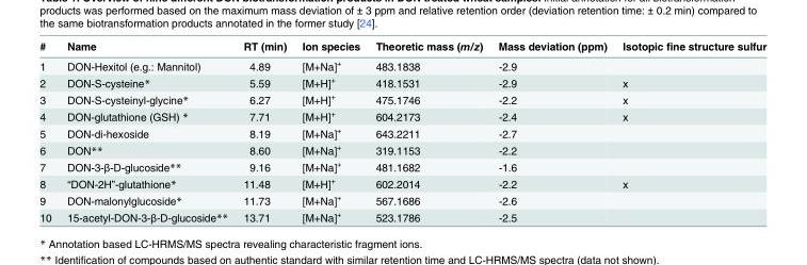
<table><thead><tr><td>#</td><td>Name</td><td>RT (min)</td><td>Ion species</td><td>Theoretic mass (m/z)</td><td>Mass deviation (ppm)</td><td>Isotopic fine structure sulfur</td></tr></thead><tbody><tr><td>1</td><td>DON-Hexitol (e.g.: Mannitol)</td><td>4.89</td><td>[M+Na]<sup>+</sup></td><td>483.1838</td><td>-2.9</td><td></td></tr><tr><td>2</td><td>DON-S-cysteine*<sup>ǂ</sup></td><td>5.59</td><td>[M+H]<sup>+</sup></td><td>418.1531</td><td>-2.9</td><td>x</td></tr><tr><td>3</td><td>DON-S-cysteinyl-glycine*<sup>ǂ</sup></td><td>6.27</td><td>[M+H]<sup>+</sup></td><td>475.1746</td><td>-2.2</td><td>x</td></tr><tr><td>4</td><td>DON-glutathione (GSH) * <sup>ǂ</sup></td><td>7.71</td><td>[M+H]<sup>+</sup></td><td>604.2173</td><td>-2.4</td><td>x</td></tr><tr><td>5</td><td>DON-di-hexoside</td><td>8.19</td><td>[M+Na]<sup>+</sup></td><td>643.2211</td><td>-2.7</td><td></td></tr><tr><td>6</td><td>DON**</td><td>8.60</td><td>[M+Na]<sup>+</sup></td><td>319.1153</td><td>-2.2</td><td></td></tr><tr><td>7</td><td>DON-3-β-D-glucoside**<sup>ǂ</sup></td><td>9.16</td><td>[M+Na]<sup>+</sup></td><td>481.1682</td><td>-1.6</td><td></td></tr><tr><td>8</td><td>“DON-2H”-glutathione*</td><td>11.48</td><td>[M+H]<sup>+</sup></td><td>602.2014</td><td>-2.2</td><td>x</td></tr><tr><td>9</td><td>DON-malonylglucoside*</td><td>11.73</td><td>[M+Na]<sup>+</sup></td><td>567.1686</td><td>-2.6</td><td></td></tr><tr><td>10</td><td>15-acetyl-DON-3-β-D-glucoside**</td><td>13.71</td><td>[M+Na]<sup>+</sup></td><td>523.1786</td><td>-2.5</td><td></td></tr></tbody></table>